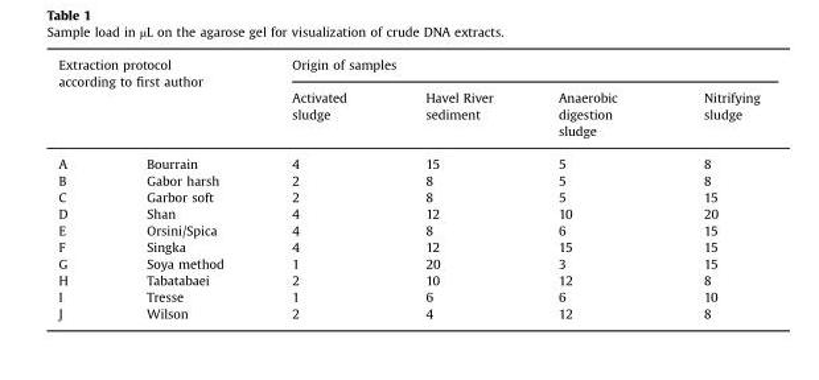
<table><thead><tr><td rowspan="2" colspan="2">Extraction protocol according to first author</td><td colspan="4">Origin of samples</td></tr><tr><td rowspan="2">Activated sludge 4</td><td rowspan="2">Havel River sediment 15</td><td rowspan="2">Anaerobic digestion sludge 5</td><td rowspan="2">Nitrifying sludge 8</td></tr><tr><td>A</td><td>Bourrain</td></tr></thead><tbody><tr><td>B</td><td>Gabor harsh</td><td>2</td><td>8</td><td>5</td><td>8</td></tr><tr><td>C</td><td>Garbor soft</td><td>2</td><td>8</td><td>5</td><td>15</td></tr><tr><td>D</td><td>Shan</td><td>4</td><td>12</td><td>10</td><td>20</td></tr><tr><td>E</td><td>Orsini/Spica</td><td>4</td><td>8</td><td>6</td><td>15</td></tr><tr><td>F</td><td>Singka</td><td>4</td><td>12</td><td>15</td><td>15</td></tr><tr><td>G</td><td>Soya method</td><td>1</td><td>20</td><td>3</td><td>15</td></tr><tr><td>H</td><td>Tabatabaei</td><td>2</td><td>10</td><td>12</td><td>8</td></tr><tr><td>I</td><td>Tresse</td><td>1</td><td>6</td><td>6</td><td>10</td></tr><tr><td>J</td><td>Wilson</td><td>2</td><td>4</td><td>12</td><td>8</td></tr></tbody></table>